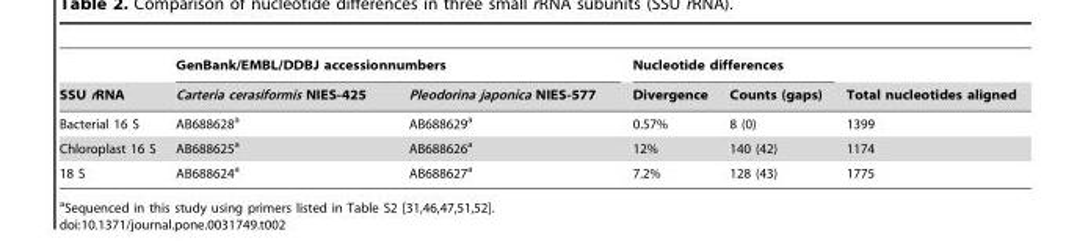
<table><thead><tr><td rowspan="2">SSU rRNA</td><td colspan="2">GenBank/EMBL/DDBJ accessionnumbers</td><td colspan="2">Nucleotide differences</td><td rowspan="2">Total nucleotides aligned</td></tr><tr><td>Carteria cerasiformis NIES-425</td><td>Pleodorina japonica NIES-577</td><td>Divergence</td><td>Counts (gaps)</td></tr></thead><tbody><tr><td>Bacterial 16 S</td><td>AB688628<sup>a</sup></td><td>AB688629<sup>a</sup></td><td>0.57%</td><td>8 (0)</td><td>1399</td></tr><tr><td>Chloroplast 16 S</td><td>AB688625<sup>a</sup></td><td>AB688626<sup>a</sup></td><td>12%</td><td>140 (42)</td><td>1174</td></tr><tr><td>18 S</td><td>AB688624<sup>a</sup></td><td>AB688627<sup>a</sup></td><td>7.2%</td><td>128 (43)</td><td>1775</td></tr></tbody></table>